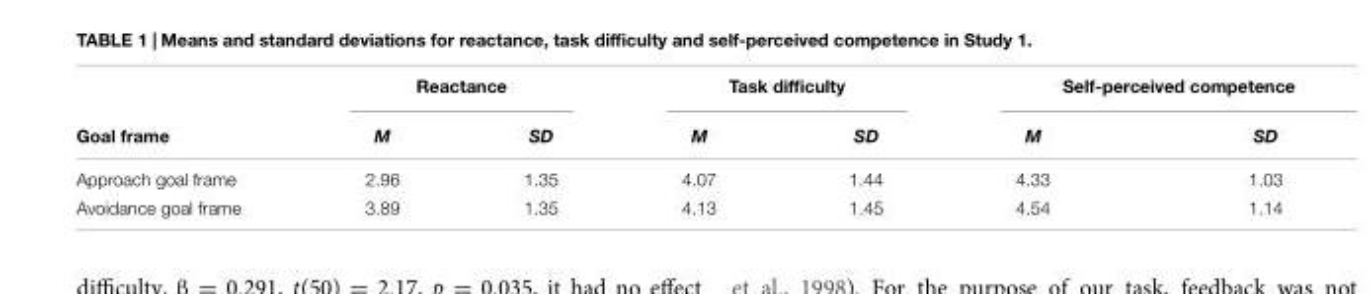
<table><thead><tr><td rowspan="2">Goal frame</td><td colspan="2">Reactance</td><td colspan="2">Task difficulty</td><td colspan="2">Self-perceived competence</td></tr><tr><td>M</td><td>SD</td><td>M</td><td>SD</td><td>M</td><td>SD</td></tr></thead><tbody><tr><td>Approach goal frame</td><td>2.96</td><td>1.35</td><td>4.07</td><td>1.44</td><td>4.33</td><td>1.03</td></tr><tr><td>Avoidance goal frame</td><td>3.89</td><td>1.35</td><td>4.13</td><td>1.45</td><td>4.54</td><td>1.14</td></tr></tbody></table>